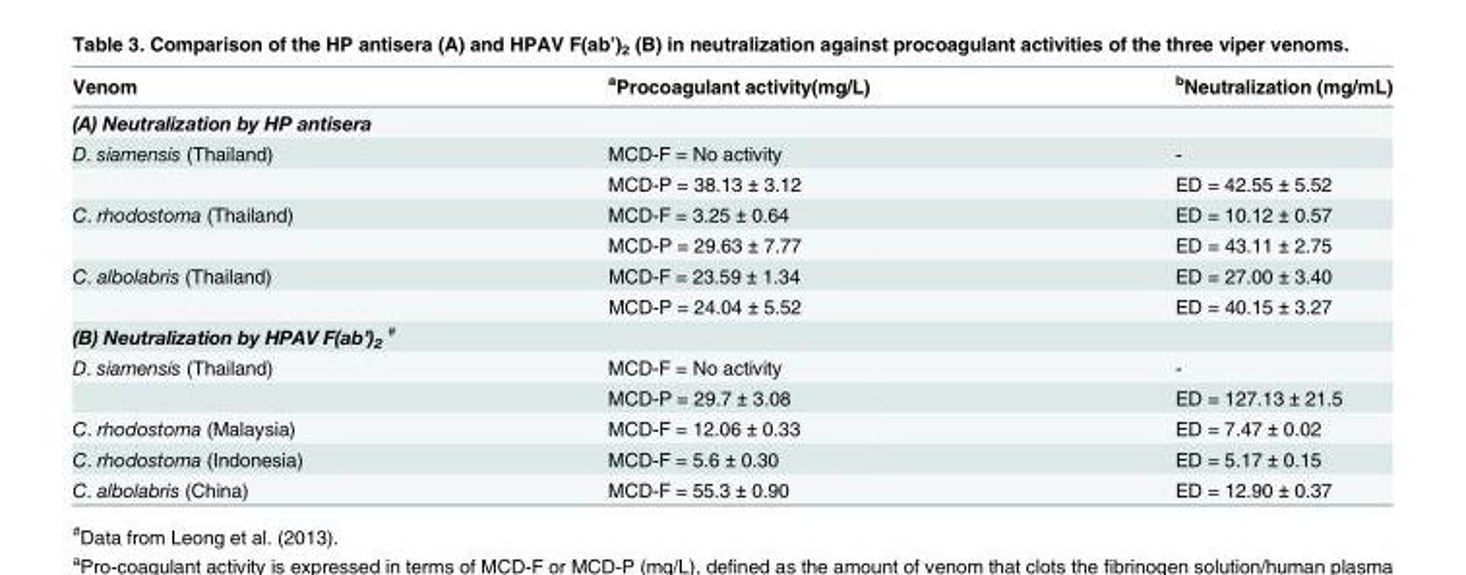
<table><thead><tr><td>Venom</td><td><sup>a</sup>Procoagulant activity(mg/L)</td><td><sup>b</sup>Neutralization (mg/mL)</td></tr></thead><tbody><tr><td colspan="3">(A) Neutralization by HP antisera</td></tr><tr><td rowspan="2">D. siamensis (Thailand)</td><td>MCD-F = No activity</td><td>-</td></tr><tr><td>MCD-P = 38.13 ± 3.12</td><td>ED = 42.55 ± 5.52</td></tr><tr><td rowspan="2">C. rhodostoma (Thailand)</td><td>MCD-F = 3.25 ± 0.64</td><td>ED = 10.12 ± 0.57</td></tr><tr><td>MCD-P = 29.63 ± 7.77</td><td>ED = 43.11 ± 2.75</td></tr><tr><td rowspan="2">C. albolabris (Thailand)</td><td>MCD-F = 23.59 ± 1.34</td><td>ED = 27.00 ± 3.40</td></tr><tr><td>MCD-P = 24.04 ± 5.52</td><td>ED = 40.15 ± 3.27</td></tr><tr><td colspan="3">(B) Neutralization by HPAV F(ab’)<sub>2</sub> <sup>#</sup></td></tr><tr><td rowspan="2">D. siamensis (Thailand)</td><td>MCD-F = No activity</td><td>-</td></tr><tr><td>MCD-P = 29.7 ± 3.08</td><td>ED = 127.13 ± 21.5</td></tr><tr><td>C. rhodostoma (Malaysia)</td><td>MCD-F = 12.06 ± 0.33</td><td>ED = 7.47 ± 0.02</td></tr><tr><td>C. rhodostoma (Indonesia)</td><td>MCD-F = 5.6 ± 0.30</td><td>ED = 5.17 ± 0.15</td></tr><tr><td>C. albolabris (China)</td><td>MCD-F = 55.3 ± 0.90</td><td>ED = 12.90 ± 0.37</td></tr></tbody></table>